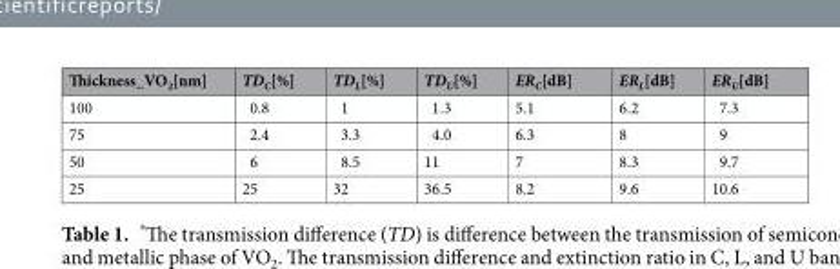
<table><thead><tr><td>Thickness_VO<sub>2</sub>[nm]</td><td>TD<sub>C</sub>[%]</td><td>TD<sub>L</sub>[%]</td><td>TD<sub>U</sub>[%]</td><td>ER<sub>C</sub>[dB]</td><td>ER<sub>L</sub>[dB]</td><td>ER<sub>U</sub>[dB]</td></tr></thead><tbody><tr><td>100</td><td>0.8</td><td>1</td><td>1.3</td><td>5.1</td><td>6.2</td><td>7.3</td></tr><tr><td>75</td><td>2.4</td><td>3.3</td><td>4.0</td><td>6.3</td><td>8</td><td>9</td></tr><tr><td>50</td><td>6</td><td>8.5</td><td>11</td><td>7</td><td>8.3</td><td>9.7</td></tr><tr><td>25</td><td>25</td><td>32</td><td>36.5</td><td>8.2</td><td>9.6</td><td>10.6</td></tr></tbody></table>